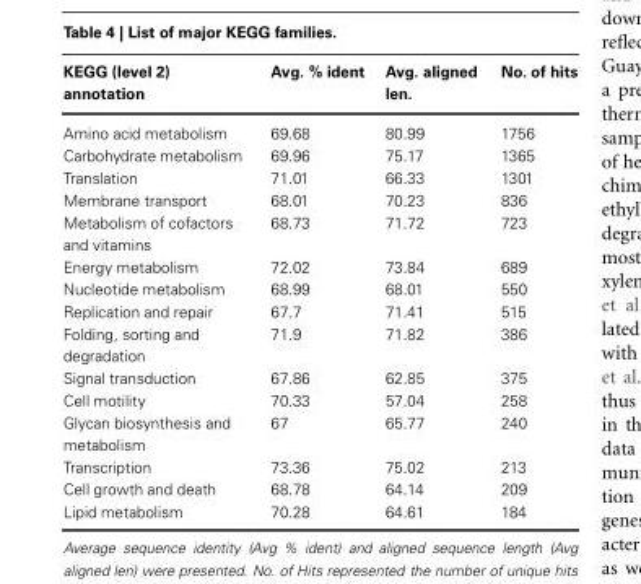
<table><thead><tr><td>KEGG (level 2) annotation</td><td>Avg. % ident</td><td>Avg. aligned len.</td><td>No. of hits</td></tr></thead><tbody><tr><td>Amino acid metabolism</td><td>69.68</td><td>80.99</td><td>1756</td></tr><tr><td>Carbohydrate metabolism</td><td>69.96</td><td>75.17</td><td>1365</td></tr><tr><td>Translation</td><td>71.01</td><td>66.33</td><td>1301</td></tr><tr><td>Membrane transport</td><td>68.01</td><td>70.23</td><td>836</td></tr><tr><td>Metabolism of cofactors and vitamins</td><td>68.73</td><td>71.72</td><td>723</td></tr><tr><td>Energy metabolism</td><td>72.02</td><td>73.84</td><td>689</td></tr><tr><td>Nucleotide metabolism</td><td>68.99</td><td>68.01</td><td>550</td></tr><tr><td>Replication and repair</td><td>67.7</td><td>71.41</td><td>515</td></tr><tr><td>Folding, sorting and degradation</td><td>71.9</td><td>71.82</td><td>386</td></tr><tr><td>Signal transduction</td><td>67.86</td><td>62.85</td><td>375</td></tr><tr><td>Cell motility</td><td>70.33</td><td>57.04</td><td>258</td></tr><tr><td>Glycan biosynthesis and metabolism</td><td>67</td><td>65.77</td><td>240</td></tr><tr><td>Transcription</td><td>73.36</td><td>75.02</td><td>213</td></tr><tr><td>Cell growth and death</td><td>68.78</td><td>64.14</td><td>209</td></tr><tr><td>Lipid metabolism</td><td>70.28</td><td>64.61</td><td>184</td></tr></tbody></table>